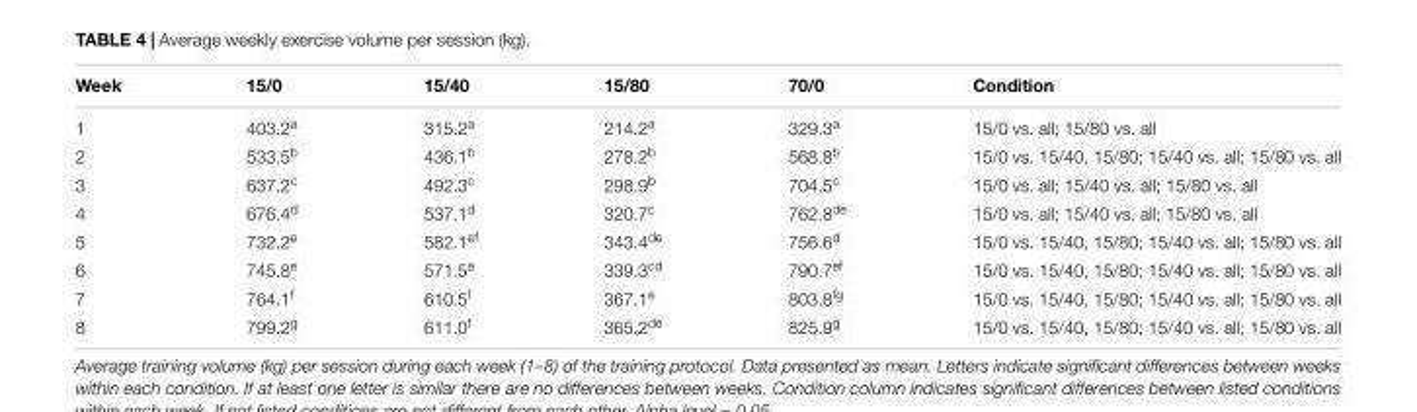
<table><thead><tr><td>Week</td><td>15/0</td><td>15/40</td><td>15/80</td><td>70/0</td><td>Condition</td></tr></thead><tbody><tr><td>1</td><td>403.2<sup>a</sup></td><td>315.2<sup>a</sup></td><td>214.2<sup>a</sup></td><td>329.3<sup>a</sup></td><td>15/0 vs. all; 15/80 vs. all</td></tr><tr><td>2</td><td>533.5<sup>b</sup></td><td>436.1<sup>b</sup></td><td>278.2<sup>b</sup></td><td>568.8<sup>b</sup></td><td>15/0 vs. 15/40, 15/80; 15/40 vs. all; 15/80 vs. all</td></tr><tr><td>3</td><td>637.2<sup>c</sup></td><td>492.3<sup>c</sup></td><td>298.9<sup>b</sup></td><td>704.5<sup>c</sup></td><td>15/0 vs. all; 15/40 vs. all; 15/80 vs. all</td></tr><tr><td>4</td><td>676.4<sup>d</sup></td><td>537.1<sup>d</sup></td><td>320.7<sup>c</sup></td><td>762.8<sup>de</sup></td><td>15/0 vs. all; 15/40 vs. all; 15/80 vs. all</td></tr><tr><td>5</td><td>732.2<sup>e</sup></td><td>582.1<sup>ef</sup></td><td>343.4<sup>de</sup></td><td>756.6<sup>d</sup></td><td>15/0 vs. 15/40, 15/80; 15/40 vs. all; 15/80 vs. all</td></tr><tr><td>6</td><td>745.8<sup>e</sup></td><td>571.5<sup>e</sup></td><td>339.3<sup>cd</sup></td><td>790.7<sup>ef</sup></td><td>15/0 vs. 15/40, 15/80; 15/40 vs. all; 15/80 vs. all</td></tr><tr><td>7</td><td>764.1<sup>f</sup></td><td>610.5<sup>f</sup></td><td>367.1<sup>e</sup></td><td>803.8<sup>fg</sup></td><td>15/0 vs. 15/40, 15/80; 15/40 vs. all; 15/80 vs. all</td></tr><tr><td>8</td><td>799.2<sup>g</sup></td><td>611.0<sup>f</sup></td><td>365.2<sup>de</sup></td><td>825.9<sup>g</sup></td><td>15/0 vs. 15/40, 15/80; 15/40 vs. all; 15/80 vs. all</td></tr></tbody></table>